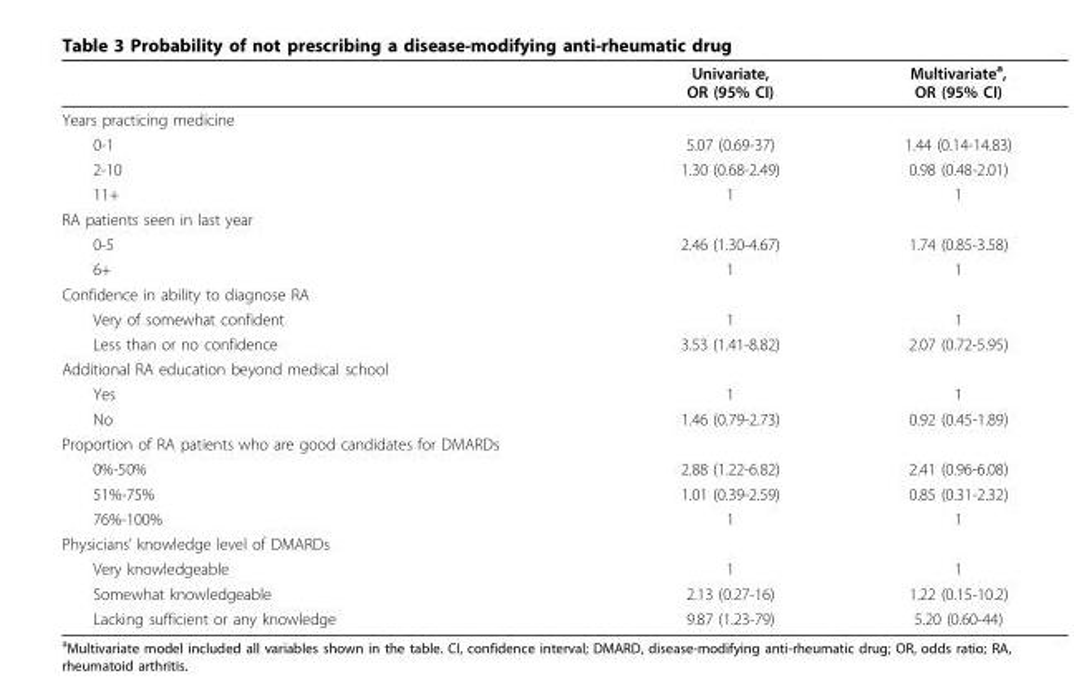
<table><thead><tr><td></td><td>Univariate, OR (95% CI)</td><td>Multivariate<sup>a</sup>, OR (95% CI)</td></tr></thead><tbody><tr><td colspan="3">Years practicing medicine</td></tr><tr><td>0-1</td><td>5.07 (0.69-37)</td><td>1.44 (0.14-14.83)</td></tr><tr><td>2-10</td><td>1.30 (0.68-2.49)</td><td>0.98 (0.48-2.01)</td></tr><tr><td>11+</td><td>1</td><td>1</td></tr><tr><td colspan="3">RA patients seen in last year</td></tr><tr><td>0-5</td><td>2.46 (1.30-4.67)</td><td>1.74 (0.85-3.58)</td></tr><tr><td>6+</td><td>1</td><td>1</td></tr><tr><td colspan="3">Confidence in ability to diagnose RA</td></tr><tr><td>Very of somewhat confident</td><td>1</td><td>1</td></tr><tr><td>Less than or no confidence</td><td>3.53 (1.41-8.82)</td><td>2.07 (0.72-5.95)</td></tr><tr><td colspan="3">Additional RA education beyond medical school</td></tr><tr><td>Yes</td><td>1</td><td>1</td></tr><tr><td>No</td><td>1.46 (0.79-2.73)</td><td>0.92 (0.45-1.89)</td></tr><tr><td colspan="3">Proportion of RA patients who are good candidates for DMARDs</td></tr><tr><td>0%-50%</td><td>2.88 (1.22-6.82)</td><td>2.41 (0.96-6.08)</td></tr><tr><td>51%-75%</td><td>1.01 (0.39-2.59)</td><td>0.85 (0.31-2.32)</td></tr><tr><td>76%-100%</td><td>1</td><td>1</td></tr><tr><td colspan="3">Physicians’ knowledge level of DMARDs</td></tr><tr><td>Very knowledgeable</td><td>1</td><td>1</td></tr><tr><td>Somewhat knowledgeable</td><td>2.13 (0.27-16)</td><td>1.22 (0.15-10.2)</td></tr><tr><td>Lacking sufficient or any knowledge</td><td>9.87 (1.23-79)</td><td>5.20 (0.60-44)</td></tr></tbody></table>